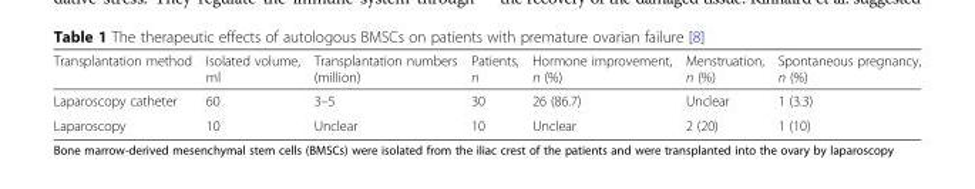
<table><thead><tr><td>Transplantation method</td><td>Isolated volume, ml</td><td>Transplantation numbers (million)</td><td>Patients, n</td><td>Hormone improvement, n (%)</td><td>Menstruation, n (%)</td><td>Spontaneous pregnancy, n (%)</td></tr></thead><tbody><tr><td>Laparoscopy catheter</td><td>60</td><td>3–5</td><td>30</td><td>26 (86.7)</td><td>Unclear</td><td>1 (3.3)</td></tr><tr><td>Laparoscopy</td><td>10</td><td>Unclear</td><td>10</td><td>Unclear</td><td>2 (20)</td><td>1 (10)</td></tr></tbody></table>